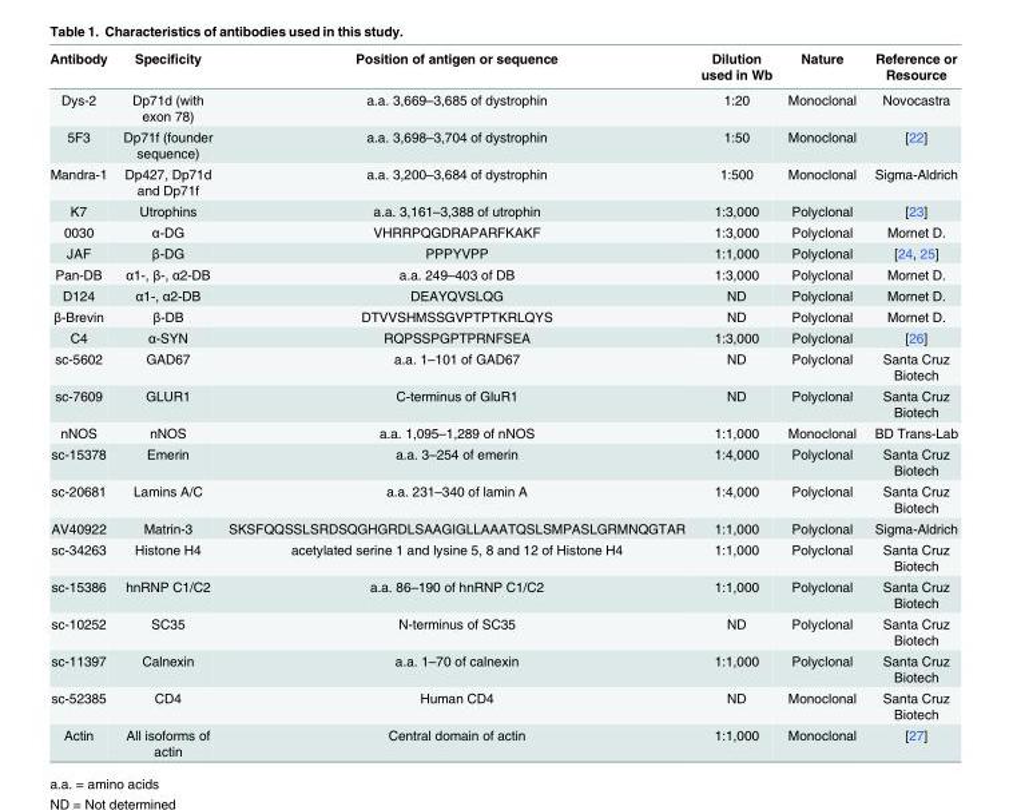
<table><thead><tr><td>Antibody</td><td>Specificity</td><td>Position of antigen or sequence</td><td>Dilution used in Wb</td><td>Nature</td><td>Reference or Resource</td></tr></thead><tbody><tr><td>Dys-2</td><td>Dp71d (with exon 78)</td><td>a.a. 3,669–3,685 of dystrophin</td><td>1:20</td><td>Monoclonal</td><td>Novocastra</td></tr><tr><td>5F3</td><td>Dp71f (founder sequence)</td><td>a.a. 3,698–3,704 of dystrophin</td><td>1:50</td><td>Monoclonal</td><td>[22]</td></tr><tr><td>Mandra-1</td><td>Dp427, Dp71d and Dp71f</td><td>a.a. 3,200–3,684 of dystrophin</td><td>1:500</td><td>Monoclonal</td><td>Sigma-Aldrich</td></tr><tr><td>K7</td><td>Utrophins</td><td>a.a. 3,161–3,388 of utrophin</td><td>1:3,000</td><td>Polyclonal</td><td>[23]</td></tr><tr><td>0030</td><td>α-DG</td><td>VHRRPQGDRAPARFKAKF</td><td>1:3,000</td><td>Polyclonal</td><td>Mornet D.</td></tr><tr><td>JAF</td><td>β-DG</td><td>PPPYVPP</td><td>1:1,000</td><td>Polyclonal</td><td>[24, 25]</td></tr><tr><td>Pan-DB</td><td>α1-, β-, α2-DB</td><td>a.a. 249–403 of DB</td><td>1:3,000</td><td>Polyclonal</td><td>Mornet D.</td></tr><tr><td>D124</td><td>α1-, α2-DB</td><td>DEAYQVSLQG</td><td>ND</td><td>Polyclonal</td><td>Mornet D.</td></tr><tr><td>β-Brevin</td><td>β-DB</td><td>DTVVSHMSSGVPTPTKRLQYS</td><td>ND</td><td>Polyclonal</td><td>Mornet D.</td></tr><tr><td>C4</td><td>α-SYN</td><td>RQPSSPGPTPRNFSEA</td><td>1:3,000</td><td>Polyclonal</td><td>[26]</td></tr><tr><td>sc-5602</td><td>GAD67</td><td>a.a. 1–101 of GAD67</td><td>ND</td><td>Polyclonal</td><td>Santa Cruz Biotech</td></tr><tr><td>sc-7609</td><td>GLUR1</td><td>C-terminus of GluR1</td><td>ND</td><td>Polyclonal</td><td>Santa Cruz Biotech</td></tr><tr><td>nNOS</td><td>nNOS</td><td>a.a. 1,095–1,289 of nNOS</td><td>1:1,000</td><td>Monoclonal</td><td>BD Trans-Lab</td></tr><tr><td>sc-15378</td><td>Emerin</td><td>a.a. 3–254 of emerin</td><td>1:4,000</td><td>Polyclonal</td><td>Santa Cruz Biotech</td></tr><tr><td>sc-20681</td><td>Lamins A/C</td><td>a.a. 231–340 of lamin A</td><td>1:4,000</td><td>Polyclonal</td><td>Santa Cruz Biotech</td></tr><tr><td>AV40922</td><td>Matrin-3</td><td>SKSFQQSSLSRDSQGHGRDLSAAGIGLLAAATQSLSMPASLGRMNQGTAR</td><td>1:1,000</td><td>Polyclonal</td><td>Sigma-Aldrich</td></tr><tr><td>sc-34263</td><td>Histone H4</td><td>acetylated serine 1 and lysine 5, 8 and 12 of Histone H4</td><td>1:1,000</td><td>Polyclonal</td><td>Santa Cruz Biotech</td></tr><tr><td>sc-15386</td><td>hnRNP C1/C2</td><td>a.a. 86–190 of hnRNP C1/C2</td><td>1:1,000</td><td>Polyclonal</td><td>Santa Cruz Biotech</td></tr><tr><td>sc-10252</td><td>SC35</td><td>N-terminus of SC35</td><td>ND</td><td>Polyclonal</td><td>Santa Cruz Biotech</td></tr><tr><td>sc-11397</td><td>Calnexin</td><td>a.a. 1–70 of calnexin</td><td>1:1,000</td><td>Polyclonal</td><td>Santa Cruz Biotech</td></tr><tr><td>sc-52385</td><td>CD4</td><td>Human CD4</td><td>ND</td><td>Monoclonal</td><td>Santa Cruz Biotech</td></tr><tr><td>Actin</td><td>All isoforms of actin</td><td>Central domain of actin</td><td>1:1,000</td><td>Monoclonal</td><td>[27]</td></tr></tbody></table>